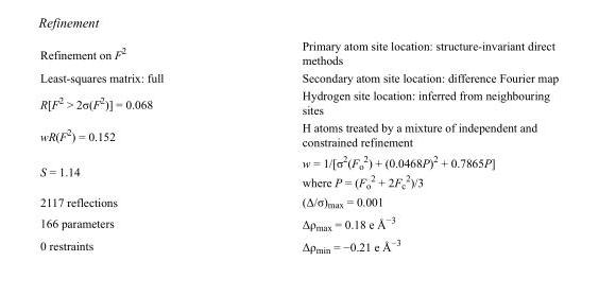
<table><tbody><tr><td>Refinement on F<sup>2</sup></td><td>Primary atom site location: structure-invariant direct methods</td></tr><tr><td>Least-squares matrix: full</td><td>Secondary atom site location: difference Fourier map</td></tr><tr><td>R[F<sup>2</sup> &gt; 2σ(F<sup>2</sup>)] = 0.068</td><td>Hydrogen site location: inferred from neighbouring sites</td></tr><tr><td>wR(F<sup>2</sup>) = 0.152</td><td>H atoms treated by a mixture of independent and constrained refinement</td></tr><tr><td>S = 1.14</td><td>w = 1/[σ<sup>2</sup>(F<sub>o</sub> <sup>2</sup>) + (0.0468P)<sup>2</sup> + 0.7865P] where P = (F<sub>o</sub> <sup>2</sup> + 2F<sub>c</sub> <sup>2</sup>)/3</td></tr><tr><td>2117 reflections</td><td>(Δ/σ)<sub>max</sub> = 0.001</td></tr><tr><td>166 parameters</td><td>Δρ<sub>max</sub> = 0.18 e Å<sup>−3</sup></td></tr><tr><td>0 restraints</td><td>Δρ<sub>min</sub> = −0.21 e Å<sup>−3</sup></td></tr></tbody></table>